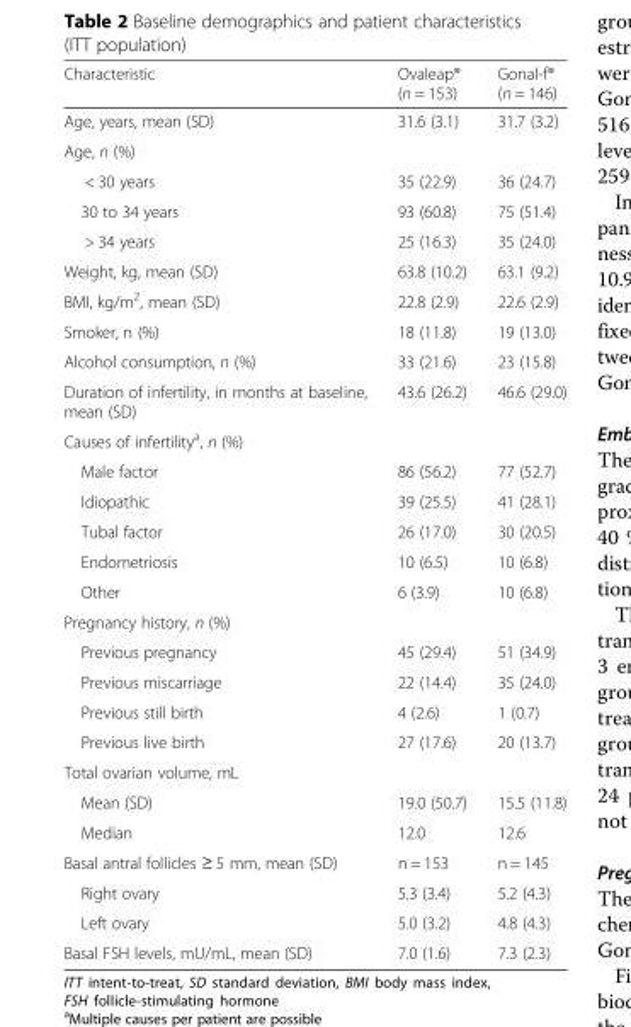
<table><thead><tr><td>Characteristic</td><td>Ovaleap® (n = 153)</td><td>Gonal-f® (n = 146)</td></tr></thead><tbody><tr><td>Age, years, mean (SD)</td><td>31.6 (3.1)</td><td>31.7 (3.2)</td></tr><tr><td colspan="3">Age, n (%)</td></tr><tr><td>&lt; 30 years</td><td>35 (22.9)</td><td>36 (24.7)</td></tr><tr><td>30 to 34 years</td><td>93 (60.8)</td><td>75 (51.4)</td></tr><tr><td>&gt; 34 years</td><td>25 (16.3)</td><td>35 (24.0)</td></tr><tr><td>Weight, kg, mean (SD)</td><td>63.8 (10.2)</td><td>63.1 (9.2)</td></tr><tr><td>BMI, kg/m<sup>2</sup>, mean (SD)</td><td>22.8 (2.9)</td><td>22.6 (2.9)</td></tr><tr><td>Smoker, n (%)</td><td>18 (11.8)</td><td>19 (13.0)</td></tr><tr><td>Alcohol consumption, n (%)</td><td>33 (21.6)</td><td>23 (15.8)</td></tr><tr><td>Duration of infertility, in months at baseline, mean (SD)</td><td>43.6 (26.2)</td><td>46.6 (29.0)</td></tr><tr><td colspan="3">Causes of infertility<sup>a</sup>, n (%)</td></tr><tr><td>Male factor</td><td>86 (56.2)</td><td>77 (52.7)</td></tr><tr><td>Idiopathic</td><td>39 (25.5)</td><td>41 (28.1)</td></tr><tr><td>Tubal factor</td><td>26 (17.0)</td><td>30 (20.5)</td></tr><tr><td>Endometriosis</td><td>10 (6.5)</td><td>10 (6.8)</td></tr><tr><td>Other</td><td>6 (3.9)</td><td>10 (6.8)</td></tr><tr><td colspan="3">Pregnancy history, n (%)</td></tr><tr><td>Previous pregnancy</td><td>45 (29.4)</td><td>51 (34.9)</td></tr><tr><td>Previous miscarriage</td><td>22 (14.4)</td><td>35 (24.0)</td></tr><tr><td>Previous still birth</td><td>4 (2.6)</td><td>1 (0.7)</td></tr><tr><td>Previous live birth</td><td>27 (17.6)</td><td>20 (13.7)</td></tr><tr><td colspan="3">Total ovarian volume, mL</td></tr><tr><td>Mean (SD)</td><td>19.0 (50.7)</td><td>15.5 (11.8)</td></tr><tr><td>Median</td><td>12.0</td><td>12.6</td></tr><tr><td>Basal antral follicles ≥ 5 mm, mean (SD)</td><td>n = 153</td><td>n = 145</td></tr><tr><td>Right ovary</td><td>5.3 (3.4)</td><td>5.2 (4.3)</td></tr><tr><td>Left ovary</td><td>5.0 (3.2)</td><td>4.8 (4.3)</td></tr><tr><td>Basal FSH levels, mU/mL, mean (SD)</td><td>7.0 (1.6)</td><td>7.3 (2.3)</td></tr></tbody></table>